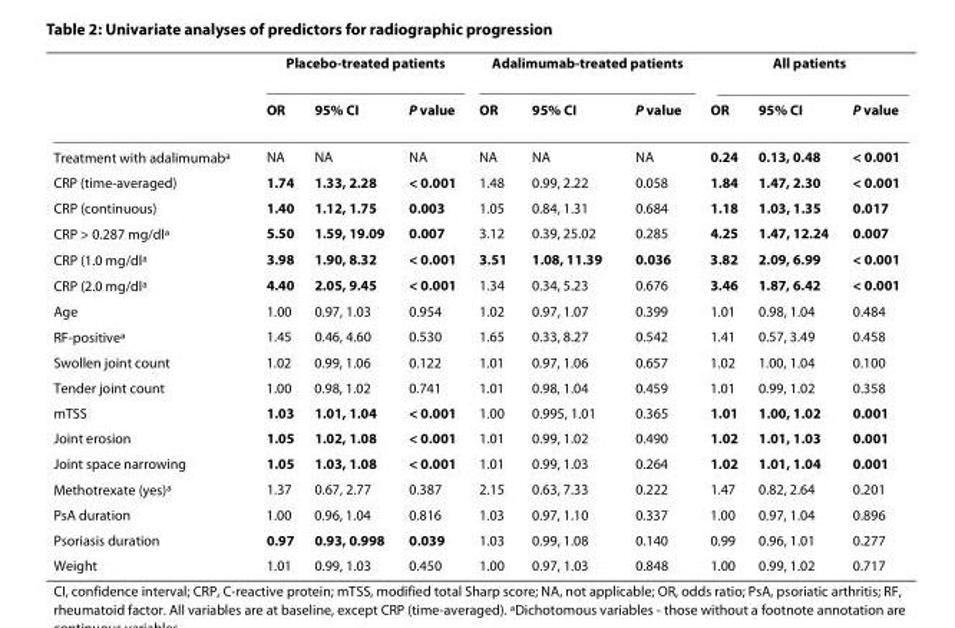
<table><thead><tr><td rowspan="2"></td><td colspan="3">Placebo-treated patients</td><td colspan="3">Adalimumab-treated patients</td><td colspan="3">All patients</td></tr><tr><td>OR</td><td>95% CI</td><td>P value</td><td>OR</td><td>95% CI</td><td>P value</td><td>OR</td><td>95% CI</td><td>P value</td></tr></thead><tbody><tr><td>Treatment with adalimumab<sup>a</sup></td><td>NA</td><td>NA</td><td>NA</td><td>NA</td><td>NA</td><td>NA</td><td>0.24</td><td>0.13, 0.48</td><td>&lt; 0.001</td></tr><tr><td>CRP (time-averaged)</td><td>1.74</td><td>1.33, 2.28</td><td>&lt; 0.001</td><td>1.48</td><td>0.99, 2.22</td><td>0.058</td><td>1.84</td><td>1.47, 2.30</td><td>&lt; 0.001</td></tr><tr><td>CRP (continuous)</td><td>1.40</td><td>1.12, 1.75</td><td>0.003</td><td>1.05</td><td>0.84, 1.31</td><td>0.684</td><td>1.18</td><td>1.03, 1.35</td><td>0.017</td></tr><tr><td>CRP &gt; 0.287 mg/dl<sup>a</sup></td><td>5.50</td><td>1.59, 19.09</td><td>0.007</td><td>3.12</td><td>0.39, 25.02</td><td>0.285</td><td>4.25</td><td>1.47, 12.24</td><td>0.007</td></tr><tr><td>CRP (1.0 mg/dl<sup>a</sup></td><td>3.98</td><td>1.90, 8.32</td><td>&lt; 0.001</td><td>3.51</td><td>1.08, 11.39</td><td>0.036</td><td>3.82</td><td>2.09, 6.99</td><td>&lt; 0.001</td></tr><tr><td>CRP (2.0 mg/dl<sup>a</sup></td><td>4.40</td><td>2.05, 9.45</td><td>&lt; 0.001</td><td>1.34</td><td>0.34, 5.23</td><td>0.676</td><td>3.46</td><td>1.87, 6.42</td><td>&lt; 0.001</td></tr><tr><td>Age</td><td>1.00</td><td>0.97, 1.03</td><td>0.954</td><td>1.02</td><td>0.97, 1.07</td><td>0.399</td><td>1.01</td><td>0.98, 1.04</td><td>0.484</td></tr><tr><td>RF-positive<sup>a</sup></td><td>1.45</td><td>0.46, 4.60</td><td>0.530</td><td>1.65</td><td>0.33, 8.27</td><td>0.542</td><td>1.41</td><td>0.57, 3.49</td><td>0.458</td></tr><tr><td>Swollen joint count</td><td>1.02</td><td>0.99, 1.06</td><td>0.122</td><td>1.01</td><td>0.97, 1.06</td><td>0.657</td><td>1.02</td><td>1.00, 1.04</td><td>0.100</td></tr><tr><td>Tender joint count</td><td>1.00</td><td>0.98, 1.02</td><td>0.741</td><td>1.01</td><td>0.98, 1.04</td><td>0.459</td><td>1.01</td><td>0.99, 1.02</td><td>0.358</td></tr><tr><td>mTSS</td><td>1.03</td><td>1.01, 1.04</td><td>&lt; 0.001</td><td>1.00</td><td>0.995, 1.01</td><td>0.365</td><td>1.01</td><td>1.00, 1.02</td><td>0.001</td></tr><tr><td>Joint erosion</td><td>1.05</td><td>1.02, 1.08</td><td>&lt; 0.001</td><td>1.01</td><td>0.99, 1.02</td><td>0.490</td><td>1.02</td><td>1.01, 1.03</td><td>0.001</td></tr><tr><td>Joint space narrowing</td><td>1.05</td><td>1.03, 1.08</td><td>&lt; 0.001</td><td>1.01</td><td>0.99, 1.03</td><td>0.264</td><td>1.02</td><td>1.01, 1.04</td><td>0.001</td></tr><tr><td>Methotrexate (yes)<sup>a</sup></td><td>1.37</td><td>0.67, 2.77</td><td>0.387</td><td>2.15</td><td>0.63, 7.33</td><td>0.222</td><td>1.47</td><td>0.82, 2.64</td><td>0.201</td></tr><tr><td>PsA duration</td><td>1.00</td><td>0.96, 1.04</td><td>0.816</td><td>1.03</td><td>0.97, 1.10</td><td>0.337</td><td>1.00</td><td>0.97, 1.04</td><td>0.896</td></tr><tr><td>Psoriasis duration</td><td>0.97</td><td>0.93, 0.998</td><td>0.039</td><td>1.03</td><td>0.99, 1.08</td><td>0.140</td><td>0.99</td><td>0.96, 1.01</td><td>0.277</td></tr><tr><td>Weight</td><td>1.01</td><td>0.99, 1.03</td><td>0.450</td><td>1.00</td><td>0.97, 1.03</td><td>0.848</td><td>1.00</td><td>0.99, 1.02</td><td>0.717</td></tr></tbody></table>